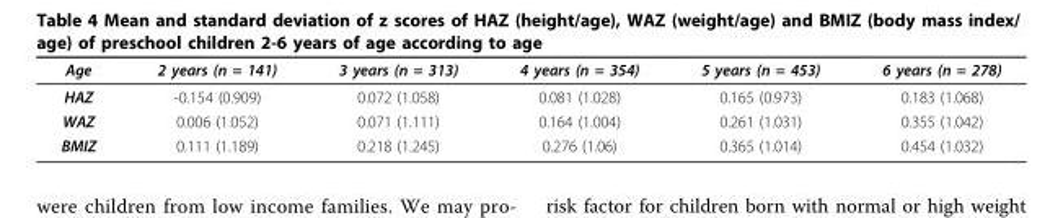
<table><thead><tr><td>Age</td><td>2 years (n = 141)</td><td>3 years (n = 313)</td><td>4 years (n = 354)</td><td>5 years (n = 453)</td><td>6 years (n = 278)</td></tr></thead><tbody><tr><td>HAZ</td><td>-0.154 (0.909)</td><td>0.072 (1.058)</td><td>0.081 (1.028)</td><td>0.165 (0.973)</td><td>0.183 (1.068)</td></tr><tr><td>WAZ</td><td>0.006 (1.052)</td><td>0.071 (1.111)</td><td>0.164 (1.004)</td><td>0.261 (1.031)</td><td>0.355 (1.042)</td></tr><tr><td>BMIZ</td><td>0.111 (1.189)</td><td>0.218 (1.245)</td><td>0.276 (1.06)</td><td>0.365 (1.014)</td><td>0.454 (1.032)</td></tr></tbody></table>